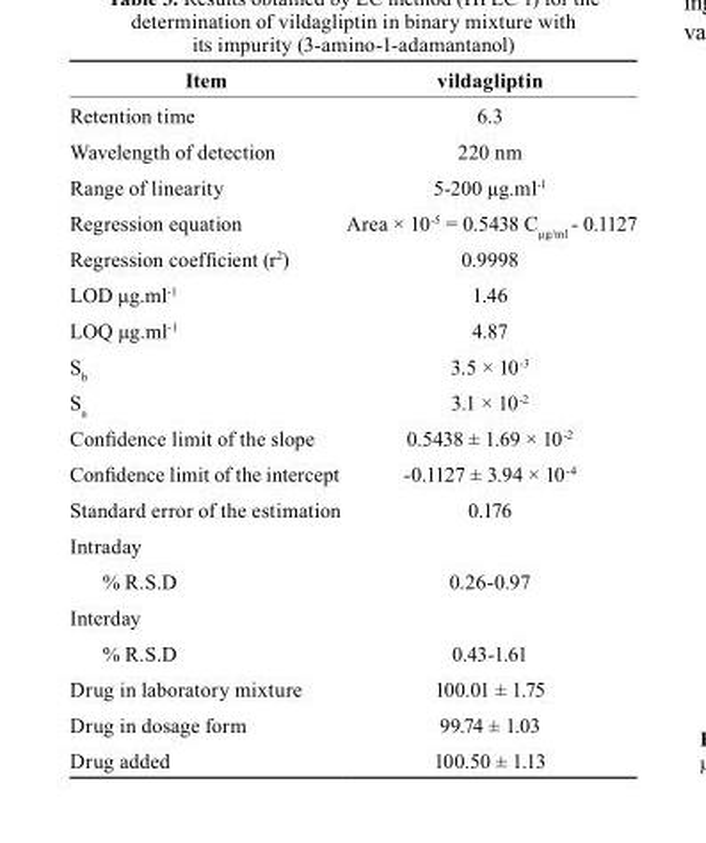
<table><thead><tr><td>Item</td><td>vildagliptin</td></tr></thead><tbody><tr><td>Retention time</td><td>6.3</td></tr><tr><td>Wavelength of detection</td><td>220 nm</td></tr><tr><td>Range of linearity</td><td>5-200 μg.ml<sup>-1</sup></td></tr><tr><td>Regression equation</td><td>Area × 10<sup>-5</sup> = 0.5438 C<sub>μg/ml</sub> - 0.1127</td></tr><tr><td>Regression coefficient (r<sup>2</sup>)</td><td>0.9998</td></tr><tr><td>LOD μg.ml<sup>-1</sup></td><td>1.46</td></tr><tr><td>LOQ μg.ml<sup>-1</sup></td><td>4.87</td></tr><tr><td>S<sub>b</sub></td><td>3.5 × 10<sup>-3</sup></td></tr><tr><td>S<sub>a</sub></td><td>3.1 × 10<sup>-2</sup></td></tr><tr><td>Confidence limit of the slope</td><td>0.5438 ± 1.69 × 10<sup>-2</sup></td></tr><tr><td>Confidence limit of the intercept</td><td>-0.1127 ± 3.94 × 10<sup>-4</sup></td></tr><tr><td>Standard error of the estimation</td><td>0.176</td></tr><tr><td colspan="2">Intraday</td></tr><tr><td>% R.S.D</td><td>0.26-0.97</td></tr><tr><td colspan="2">Interday</td></tr><tr><td>% R.S.D</td><td>0.43-1.61</td></tr><tr><td>Drug in laboratory mixture</td><td>100.01 ± 1.75</td></tr><tr><td>Drug in dosage form</td><td>99.74 ± 1.03</td></tr><tr><td>Drug added</td><td>100.50 ± 1.13</td></tr></tbody></table>